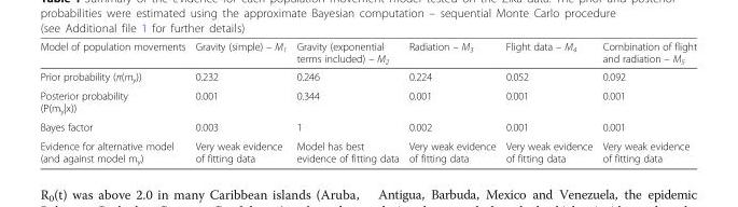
<table><thead><tr><td>Model of population movements</td><td>Gravity (simple) – M<sub>1</sub></td><td>Gravity (exponential terms included) – M<sub>2</sub></td><td>Radiation – M<sub>3</sub></td><td>Flight data – M<sub>4</sub></td><td>Combination of flight and radiation – M<sub>5</sub></td></tr></thead><tbody><tr><td>Prior probability (π(m<sub>y</sub>))</td><td>0.232</td><td>0.246</td><td>0.224</td><td>0.052</td><td>0.092</td></tr><tr><td>Posterior probability (P(m<sub>y</sub>|x))</td><td>0.001</td><td>0.344</td><td>0.001</td><td>0.001</td><td>0.001</td></tr><tr><td>Bayes factor</td><td>0.003</td><td>1</td><td>0.002</td><td>0.001</td><td>0.001</td></tr><tr><td>Evidence for alternative model (and against model m<sub>y</sub>)</td><td>Very weak evidence of fitting data</td><td>Model has best evidence of fitting data</td><td>Very weak evidence of fitting data</td><td>Very weak evidence of fitting data</td><td>Very weak evidence of fitting data</td></tr></tbody></table>